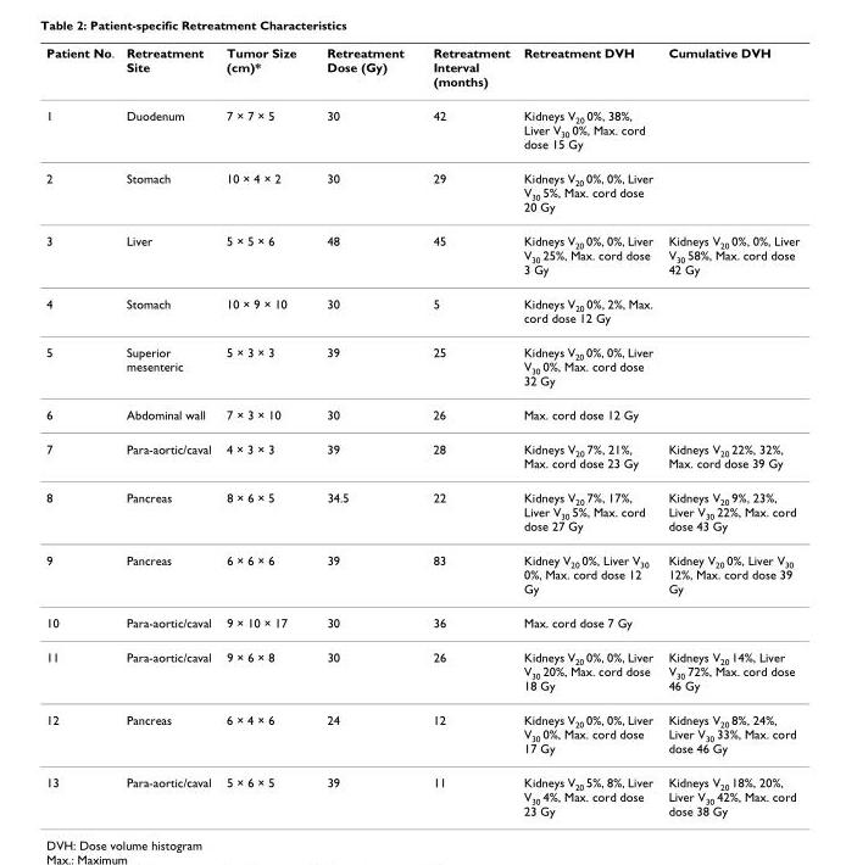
<table><thead><tr><td>Patient No.</td><td>Retreatment Site</td><td>Tumor Size (cm)*</td><td>Retreatment Dose (Gy)</td><td>Retreatment Interval (months)</td><td>Retreatment DVH</td><td>Cumulative DVH</td></tr></thead><tbody><tr><td>1</td><td>Duodenum</td><td>7 × 7 × 5</td><td>30</td><td>42</td><td>Kidneys V<sub>20</sub> 0%, 38%, Liver V<sub>30</sub> 0%, Max. cord dose 15 Gy</td><td></td></tr><tr><td>2</td><td>Stomach</td><td>10 × 4 × 2</td><td>30</td><td>29</td><td>Kidneys V<sub>20</sub> 0%, 0%, Liver V<sub>30</sub> 5%, Max. cord dose 20 Gy</td><td></td></tr><tr><td>3</td><td>Liver</td><td>5 × 5 × 6</td><td>48</td><td>45</td><td>Kidneys V<sub>20</sub> 0%, 0%, Liver V<sub>30</sub> 25%, Max. cord dose 3 Gy</td><td>Kidneys V<sub>20</sub> 0%, 0%, Liver V<sub>30</sub> 58%, Max. cord dose 42 Gy</td></tr><tr><td>4</td><td>Stomach</td><td>10 × 9 × 10</td><td>30</td><td>5</td><td>Kidneys V<sub>20</sub> 0%, 2%, Max. cord dose 12 Gy</td><td></td></tr><tr><td>5</td><td>Superior mesenteric</td><td>5 × 3 × 3</td><td>39</td><td>25</td><td>Kidneys V<sub>20</sub> 0%, 0%, Liver V<sub>30</sub> 0%, Max. cord dose 32 Gy</td><td></td></tr><tr><td>6</td><td>Abdominal wall</td><td>7 × 3 × 10</td><td>30</td><td>26</td><td>Max. cord dose 12 Gy</td><td></td></tr><tr><td>7</td><td>Para-aortic/caval</td><td>4 × 3 × 3</td><td>39</td><td>28</td><td>Kidneys V<sub>20</sub> 7%, 21%, Max. cord dose 23 Gy</td><td>Kidneys V<sub>20</sub> 22%, 32%, Max. cord dose 39 Gy</td></tr><tr><td>8</td><td>Pancreas</td><td>8 × 6 × 5</td><td>34.5</td><td>22</td><td>Kidneys V<sub>20</sub> 7%, 17%, Liver V<sub>30</sub> 5%, Max. cord dose 27 Gy</td><td>Kidneys V<sub>20</sub> 9%, 23%, Liver V<sub>30</sub> 22%, Max. cord dose 43 Gy</td></tr><tr><td>9</td><td>Pancreas</td><td>6 × 6 × 6</td><td>39</td><td>83</td><td>Kidney V<sub>20</sub> 0%, Liver V<sub>30</sub> 0%, Max. cord dose 12 Gy</td><td>Kidney V<sub>20</sub> 0%, Liver V<sub>30</sub> 12%, Max. cord dose 39 Gy</td></tr><tr><td>10</td><td>Para-aortic/caval</td><td>9 × 10 × 17</td><td>30</td><td>36</td><td>Max. cord dose 7 Gy</td><td></td></tr><tr><td>11</td><td>Para-aortic/caval</td><td>9 × 6 × 8</td><td>30</td><td>26</td><td>Kidneys V<sub>20</sub> 0%, 0%, Liver V<sub>30</sub> 20%, Max. cord dose 18 Gy</td><td>Kidneys V<sub>20</sub> 14%, Liver V<sub>30</sub> 72%, Max. cord dose 46 Gy</td></tr><tr><td>12</td><td>Pancreas</td><td>6 × 4 × 6</td><td>24</td><td>12</td><td>Kidneys V<sub>20</sub> 0%, 0%, Liver V<sub>30</sub> 0%, Max. cord dose 17 Gy</td><td>Kidneys V<sub>20</sub> 8%, 24%, Liver V<sub>30</sub> 33%, Max. cord dose 46 Gy</td></tr><tr><td>13</td><td>Para-aortic/caval</td><td>5 × 6 × 5</td><td>39</td><td>11</td><td>Kidneys V<sub>20</sub> 5%, 8%, Liver V<sub>30</sub> 4%, Max. cord dose 23 Gy</td><td>Kidneys V<sub>20</sub> 18%, 20%, Liver V<sub>30</sub> 42%, Max. cord dose 38 Gy</td></tr></tbody></table>